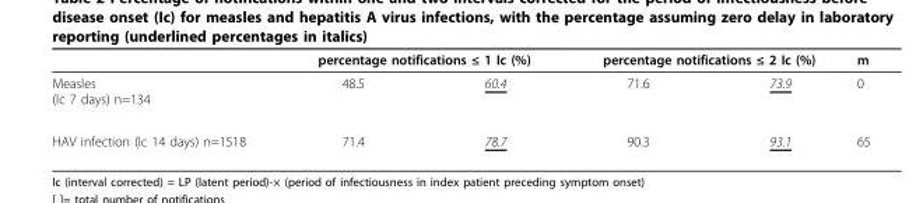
<table><thead><tr><td rowspan="2">Measles (Ic 7 days) n=134</td><td colspan="2">percentage notifications ≤ 1 Ic (%)</td><td colspan="2">percentage notifications ≤ 2 Ic (%)</td><td rowspan="2">m 0</td></tr><tr><td>48.5</td><td>60.4</td><td>71.6</td><td>73.9</td></tr></thead><tbody><tr><td>HAV infection (Ic 14 days) n=1518</td><td>71.4</td><td>78.7</td><td>90.3</td><td>93.1</td><td>65</td></tr></tbody></table>